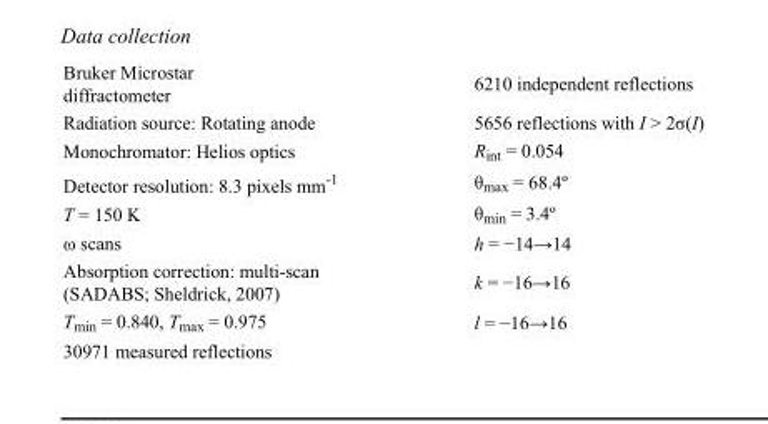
<table><tbody><tr><td>Bruker Microstar diffractometer</td><td>6210 independent reflections</td></tr><tr><td>Radiation source: Rotating anode</td><td>5656 reflections with I &gt; 2σ(I)</td></tr><tr><td>Monochromator: Helios optics</td><td>R<sub>int</sub> = 0.054</td></tr><tr><td>Detector resolution: 8.3 pixels mm<sup>-1</sup></td><td>θ<sub>max</sub> = 68.4º</td></tr><tr><td>T = 150 K</td><td>θ<sub>min</sub> = 3.4º</td></tr><tr><td>ω scans</td><td>h = −14→14</td></tr><tr><td>Absorption correction: multi-scan (SADABS; Sheldrick, 2007)</td><td>k = −16→16</td></tr><tr><td>T<sub>min</sub> = 0.840, T<sub>max</sub> = 0.975</td><td>l = −16→16</td></tr><tr><td>30971 measured reflections</td><td></td></tr></tbody></table>